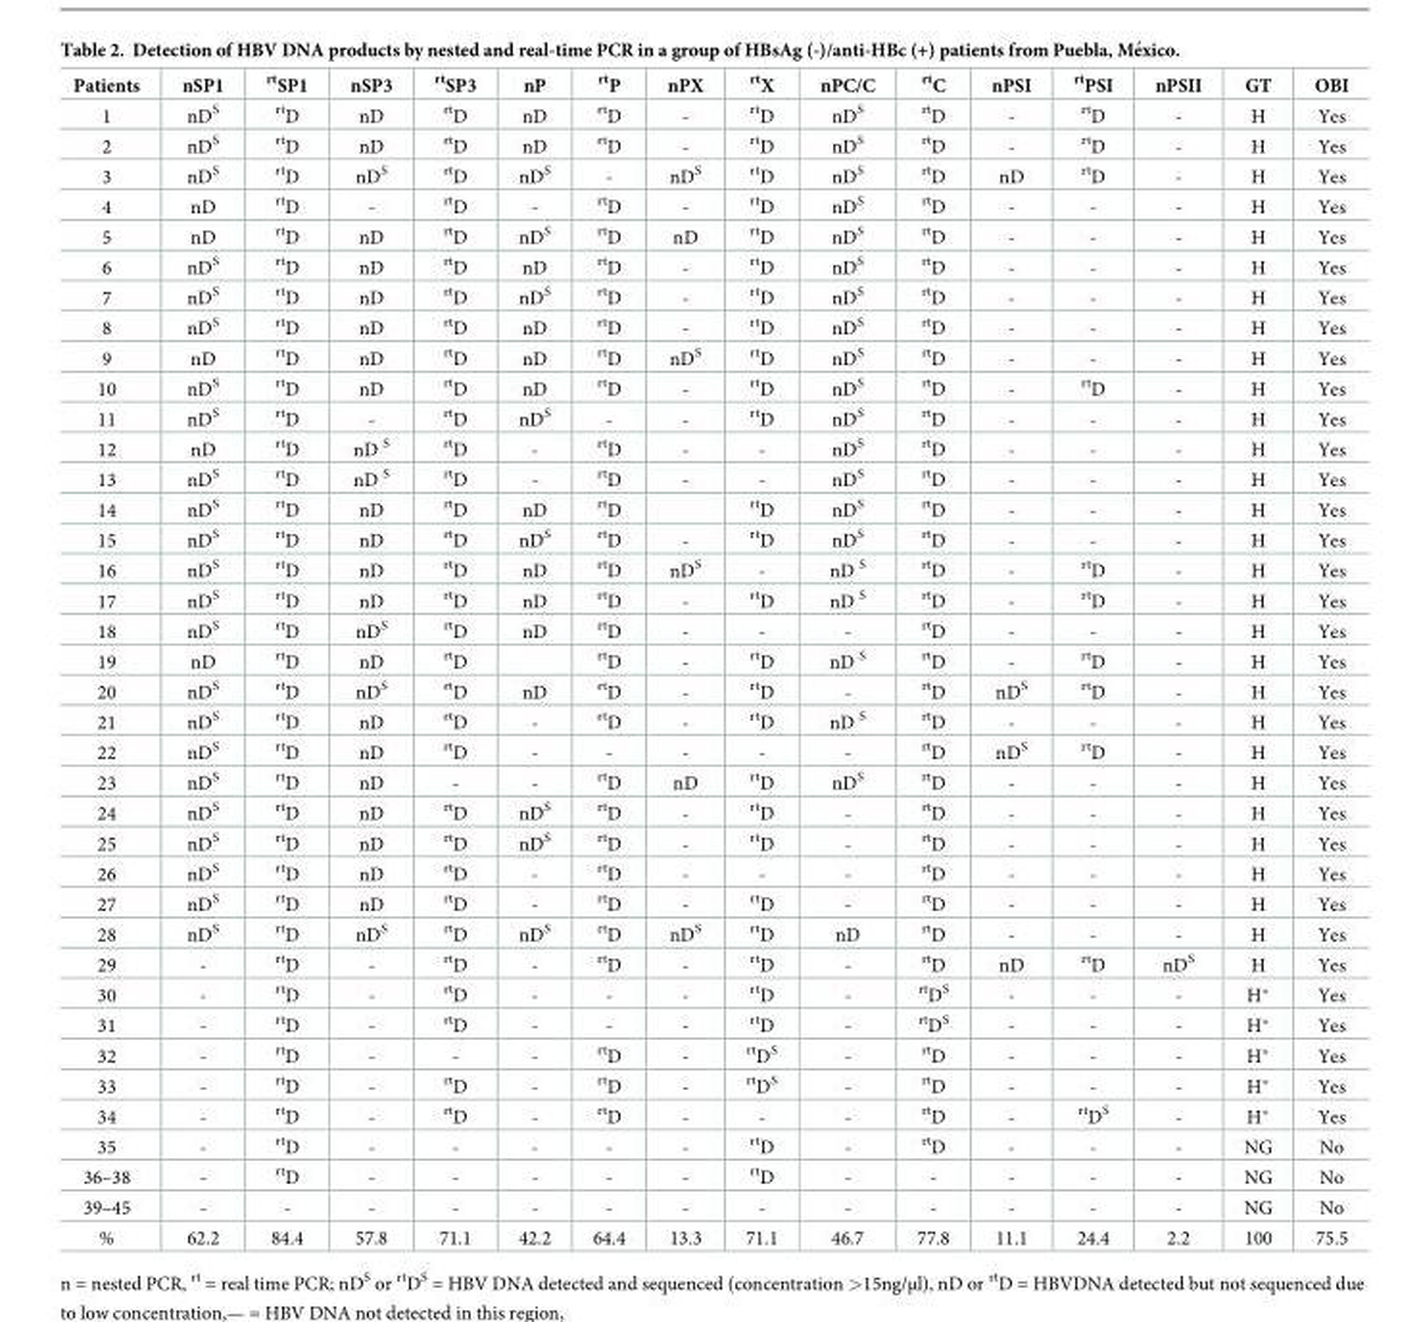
<table><thead><tr><td>Patients</td><td>nSP1</td><td><sup>rt</sup>SP1</td><td>nSP3</td><td><sup>rt</sup>SP3</td><td>nP</td><td><sup>rt</sup>P</td><td>nPX</td><td><sup>rt</sup>X</td><td>nPC/C</td><td><sup>rt</sup>C</td><td>nPSI</td><td><sup>rt</sup>PSI</td><td>nPSII</td><td>GT</td><td>OBI</td></tr></thead><tbody><tr><td>1</td><td>nD<sup>S</sup></td><td><sup>rt</sup>D</td><td>nD</td><td><sup>rt</sup>D</td><td>nD</td><td><sup>rt</sup>D</td><td>-</td><td><sup>rt</sup>D</td><td>nD<sup>S</sup></td><td><sup>rt</sup>D</td><td>-</td><td><sup>rt</sup>D</td><td>-</td><td>H</td><td>Yes</td></tr><tr><td>2</td><td>nD<sup>S</sup></td><td><sup>rt</sup>D</td><td>nD</td><td><sup>rt</sup>D</td><td>nD</td><td><sup>rt</sup>D</td><td>-</td><td><sup>rt</sup>D</td><td>nD<sup>S</sup></td><td><sup>rt</sup>D</td><td>-</td><td><sup>rt</sup>D</td><td>-</td><td>H</td><td>Yes</td></tr><tr><td>3</td><td>nD<sup>S</sup></td><td><sup>rt</sup>D</td><td>nD<sup>S</sup></td><td><sup>rt</sup>D</td><td>nD<sup>S</sup></td><td>-</td><td>nD<sup>S</sup></td><td><sup>rt</sup>D</td><td>nD<sup>S</sup></td><td><sup>rt</sup>D</td><td>nD</td><td><sup>rt</sup>D</td><td>-</td><td>H</td><td>Yes</td></tr><tr><td>4</td><td>nD</td><td><sup>rt</sup>D</td><td>-</td><td><sup>rt</sup>D</td><td>-</td><td><sup>rt</sup>D</td><td>-</td><td><sup>rt</sup>D</td><td>nD<sup>S</sup></td><td><sup>rt</sup>D</td><td>-</td><td>-</td><td>-</td><td>H</td><td>Yes</td></tr><tr><td>5</td><td>nD</td><td><sup>rt</sup>D</td><td>nD</td><td><sup>rt</sup>D</td><td>nD<sup>S</sup></td><td><sup>rt</sup>D</td><td>nD</td><td><sup>rt</sup>D</td><td>nD<sup>S</sup></td><td><sup>rt</sup>D</td><td>-</td><td>-</td><td>-</td><td>H</td><td>Yes</td></tr><tr><td>6</td><td>nD<sup>S</sup></td><td><sup>rt</sup>D</td><td>nD</td><td><sup>rt</sup>D</td><td>nD</td><td><sup>rt</sup>D</td><td>-</td><td><sup>rt</sup>D</td><td>nD<sup>S</sup></td><td><sup>rt</sup>D</td><td>-</td><td>-</td><td>-</td><td>H</td><td>Yes</td></tr><tr><td>7</td><td>nD<sup>S</sup></td><td><sup>rt</sup>D</td><td>nD</td><td><sup>rt</sup>D</td><td>nD<sup>S</sup></td><td><sup>rt</sup>D</td><td>-</td><td><sup>rt</sup>D</td><td>nD<sup>S</sup></td><td><sup>rt</sup>D</td><td>-</td><td>-</td><td>-</td><td>H</td><td>Yes</td></tr><tr><td>8</td><td>nD<sup>S</sup></td><td><sup>rt</sup>D</td><td>nD</td><td><sup>rt</sup>D</td><td>nD</td><td><sup>rt</sup>D</td><td>-</td><td><sup>rt</sup>D</td><td>nD<sup>S</sup></td><td><sup>rt</sup>D</td><td>-</td><td>-</td><td>-</td><td>H</td><td>Yes</td></tr><tr><td>9</td><td>nD</td><td><sup>rt</sup>D</td><td>nD</td><td><sup>rt</sup>D</td><td>nD</td><td><sup>rt</sup>D</td><td>nD<sup>S</sup></td><td><sup>rt</sup>D</td><td>nD<sup>S</sup></td><td><sup>rt</sup>D</td><td>-</td><td>-</td><td>-</td><td>H</td><td>Yes</td></tr><tr><td>10</td><td>nD<sup>S</sup></td><td><sup>rt</sup>D</td><td>nD</td><td><sup>rt</sup>D</td><td>nD</td><td><sup>rt</sup>D</td><td>-</td><td><sup>rt</sup>D</td><td>nD<sup>S</sup></td><td><sup>rt</sup>D</td><td>-</td><td><sup>rt</sup>D</td><td>-</td><td>H</td><td>Yes</td></tr><tr><td>11</td><td>nD<sup>S</sup></td><td><sup>rt</sup>D</td><td>-</td><td><sup>rt</sup>D</td><td>nD<sup>S</sup></td><td>-</td><td>-</td><td><sup>rt</sup>D</td><td>nD<sup>S</sup></td><td><sup>rt</sup>D</td><td>-</td><td>-</td><td>-</td><td>H</td><td>Yes</td></tr><tr><td>12</td><td>nD</td><td><sup>rt</sup>D</td><td>nD <sup>S</sup></td><td><sup>rt</sup>D</td><td>-</td><td><sup>rt</sup>D</td><td>-</td><td>-</td><td>nD<sup>S</sup></td><td><sup>rt</sup>D</td><td>-</td><td>-</td><td>-</td><td>H</td><td>Yes</td></tr><tr><td>13</td><td>nD<sup>S</sup></td><td><sup>rt</sup>D</td><td>nD <sup>S</sup></td><td><sup>rt</sup>D</td><td>-</td><td><sup>rt</sup>D</td><td>-</td><td>-</td><td>nD<sup>S</sup></td><td><sup>rt</sup>D</td><td>-</td><td>-</td><td>-</td><td>H</td><td>Yes</td></tr><tr><td>14</td><td>nD<sup>S</sup></td><td><sup>rt</sup>D</td><td>nD</td><td><sup>rt</sup>D</td><td>nD</td><td><sup>rt</sup>D</td><td></td><td><sup>rt</sup>D</td><td>nD<sup>S</sup></td><td><sup>rt</sup>D</td><td>-</td><td>-</td><td>-</td><td>H</td><td>Yes</td></tr><tr><td>15</td><td>nD<sup>S</sup></td><td><sup>rt</sup>D</td><td>nD</td><td><sup>rt</sup>D</td><td>nD<sup>S</sup></td><td><sup>rt</sup>D</td><td>-</td><td><sup>rt</sup>D</td><td>nD<sup>S</sup></td><td><sup>rt</sup>D</td><td>-</td><td>-</td><td>-</td><td>H</td><td>Yes</td></tr><tr><td>16</td><td>nD<sup>S</sup></td><td><sup>rt</sup>D</td><td>nD</td><td><sup>rt</sup>D</td><td>nD</td><td><sup>rt</sup>D</td><td>nD<sup>S</sup></td><td>-</td><td>nD <sup>S</sup></td><td><sup>rt</sup>D</td><td>-</td><td><sup>rt</sup>D</td><td>-</td><td>H</td><td>Yes</td></tr><tr><td>17</td><td>nD<sup>S</sup></td><td><sup>rt</sup>D</td><td>nD</td><td><sup>rt</sup>D</td><td>nD</td><td><sup>rt</sup>D</td><td>-</td><td><sup>rt</sup>D</td><td>nD <sup>S</sup></td><td><sup>rt</sup>D</td><td>-</td><td><sup>rt</sup>D</td><td>-</td><td>H</td><td>Yes</td></tr><tr><td>18</td><td>nD<sup>S</sup></td><td><sup>rt</sup>D</td><td>nD<sup>S</sup></td><td><sup>rt</sup>D</td><td>nD</td><td><sup>rt</sup>D</td><td>-</td><td>-</td><td>-</td><td><sup>rt</sup>D</td><td>-</td><td>-</td><td>-</td><td>H</td><td>Yes</td></tr><tr><td>19</td><td>nD</td><td><sup>rt</sup>D</td><td>nD</td><td><sup>rt</sup>D</td><td></td><td><sup>rt</sup>D</td><td>-</td><td><sup>rt</sup>D</td><td>nD <sup>S</sup></td><td><sup>rt</sup>D</td><td>-</td><td><sup>rt</sup>D</td><td>-</td><td>H</td><td>Yes</td></tr><tr><td>20</td><td>nD<sup>S</sup></td><td><sup>rt</sup>D</td><td>nD<sup>S</sup></td><td><sup>rt</sup>D</td><td>nD</td><td><sup>rt</sup>D</td><td>-</td><td><sup>rt</sup>D</td><td>-</td><td><sup>rt</sup>D</td><td>nD<sup>S</sup></td><td><sup>rt</sup>D</td><td>-</td><td>H</td><td>Yes</td></tr><tr><td>21</td><td>nD<sup>S</sup></td><td><sup>rt</sup>D</td><td>nD</td><td><sup>rt</sup>D</td><td>-</td><td><sup>rt</sup>D</td><td>-</td><td><sup>rt</sup>D</td><td>nD <sup>S</sup></td><td><sup>rt</sup>D</td><td>-</td><td>-</td><td>-</td><td>H</td><td>Yes</td></tr><tr><td>22</td><td>nD<sup>S</sup></td><td><sup>rt</sup>D</td><td>nD</td><td><sup>rt</sup>D</td><td>-</td><td>-</td><td>-</td><td>-</td><td>-</td><td><sup>rt</sup>D</td><td>nD<sup>S</sup></td><td><sup>rt</sup>D</td><td>-</td><td>H</td><td>Yes</td></tr><tr><td>23</td><td>nD<sup>S</sup></td><td><sup>rt</sup>D</td><td>nD</td><td>-</td><td>-</td><td><sup>rt</sup>D</td><td>nD</td><td><sup>rt</sup>D</td><td>nD<sup>S</sup></td><td><sup>rt</sup>D</td><td>-</td><td>-</td><td>-</td><td>H</td><td>Yes</td></tr><tr><td>24</td><td>nD<sup>S</sup></td><td><sup>rt</sup>D</td><td>nD</td><td><sup>rt</sup>D</td><td>nD<sup>S</sup></td><td><sup>rt</sup>D</td><td>-</td><td><sup>rt</sup>D</td><td>-</td><td><sup>rt</sup>D</td><td>-</td><td>-</td><td>-</td><td>H</td><td>Yes</td></tr><tr><td>25</td><td>nD<sup>S</sup></td><td><sup>rt</sup>D</td><td>nD</td><td><sup>rt</sup>D</td><td>nD<sup>S</sup></td><td><sup>rt</sup>D</td><td>-</td><td><sup>rt</sup>D</td><td>-</td><td><sup>rt</sup>D</td><td>-</td><td>-</td><td>-</td><td>H</td><td>Yes</td></tr><tr><td>26</td><td>nD<sup>S</sup></td><td><sup>rt</sup>D</td><td>nD</td><td><sup>rt</sup>D</td><td>-</td><td><sup>rt</sup>D</td><td>-</td><td>-</td><td>-</td><td><sup>rt</sup>D</td><td>-</td><td>-</td><td>-</td><td>H</td><td>Yes</td></tr><tr><td>27</td><td>nD<sup>S</sup></td><td><sup>rt</sup>D</td><td>nD</td><td><sup>rt</sup>D</td><td>-</td><td><sup>rt</sup>D</td><td>-</td><td><sup>rt</sup>D</td><td>-</td><td><sup>rt</sup>D</td><td>-</td><td>-</td><td>-</td><td>H</td><td>Yes</td></tr><tr><td>28</td><td>nD<sup>S</sup></td><td><sup>rt</sup>D</td><td>nD<sup>S</sup></td><td><sup>rt</sup>D</td><td>nD<sup>S</sup></td><td><sup>rt</sup>D</td><td>nD<sup>S</sup></td><td><sup>rt</sup>D</td><td>nD</td><td><sup>rt</sup>D</td><td>-</td><td>-</td><td>-</td><td>H</td><td>Yes</td></tr><tr><td>29</td><td>-</td><td><sup>rt</sup>D</td><td>-</td><td><sup>rt</sup>D</td><td>-</td><td><sup>rt</sup>D</td><td>-</td><td><sup>rt</sup>D</td><td>-</td><td><sup>rt</sup>D</td><td>nD</td><td><sup>rt</sup>D</td><td>nD<sup>S</sup></td><td>H</td><td>Yes</td></tr><tr><td>30</td><td>-</td><td><sup>rt</sup>D</td><td>-</td><td><sup>rt</sup>D</td><td>-</td><td>-</td><td>-</td><td><sup>rt</sup>D</td><td>-</td><td><sup>rt</sup>D<sup>S</sup></td><td>-</td><td>-</td><td>-</td><td>H*</td><td>Yes</td></tr><tr><td>31</td><td>-</td><td><sup>rt</sup>D</td><td>-</td><td><sup>rt</sup>D</td><td>-</td><td>-</td><td>-</td><td><sup>rt</sup>D</td><td>-</td><td><sup>rt</sup>D<sup>S</sup></td><td>-</td><td>-</td><td>-</td><td>H*</td><td>Yes</td></tr><tr><td>32</td><td>-</td><td><sup>rt</sup>D</td><td>-</td><td>-</td><td>-</td><td><sup>rt</sup>D</td><td>-</td><td><sup>rt</sup>D<sup>S</sup></td><td>-</td><td><sup>rt</sup>D</td><td>-</td><td>-</td><td>-</td><td>H*</td><td>Yes</td></tr><tr><td>33</td><td>-</td><td><sup>rt</sup>D</td><td>-</td><td><sup>rt</sup>D</td><td>-</td><td><sup>rt</sup>D</td><td>-</td><td><sup>rt</sup>D<sup>S</sup></td><td>-</td><td><sup>rt</sup>D</td><td>-</td><td>-</td><td>-</td><td>H*</td><td>Yes</td></tr><tr><td>34</td><td>-</td><td><sup>rt</sup>D</td><td>-</td><td><sup>rt</sup>D</td><td>-</td><td><sup>rt</sup>D</td><td>-</td><td>-</td><td>-</td><td><sup>rt</sup>D</td><td>-</td><td><sup>rt</sup>D<sup>S</sup></td><td>-</td><td>H*</td><td>Yes</td></tr><tr><td>35</td><td>-</td><td><sup>rt</sup>D</td><td>-</td><td>-</td><td>-</td><td>-</td><td>-</td><td><sup>rt</sup>D</td><td>-</td><td><sup>rt</sup>D</td><td>-</td><td>-</td><td>-</td><td>NG</td><td>No</td></tr><tr><td>36–38</td><td>-</td><td><sup>rt</sup>D</td><td>-</td><td>-</td><td>-</td><td>-</td><td>-</td><td><sup>rt</sup>D</td><td>-</td><td>-</td><td>-</td><td>-</td><td>-</td><td>NG</td><td>No</td></tr><tr><td>39–45</td><td>-</td><td>-</td><td>-</td><td>-</td><td>-</td><td>-</td><td>-</td><td>-</td><td>-</td><td>-</td><td>-</td><td>-</td><td>-</td><td>NG</td><td>No</td></tr><tr><td>%</td><td>62.2</td><td>84.4</td><td>57.8</td><td>71.1</td><td>42.2</td><td>64.4</td><td>13.3</td><td>71.1</td><td>46.7</td><td>77.8</td><td>11.1</td><td>24.4</td><td>2.2</td><td>100</td><td>75.5</td></tr></tbody></table>